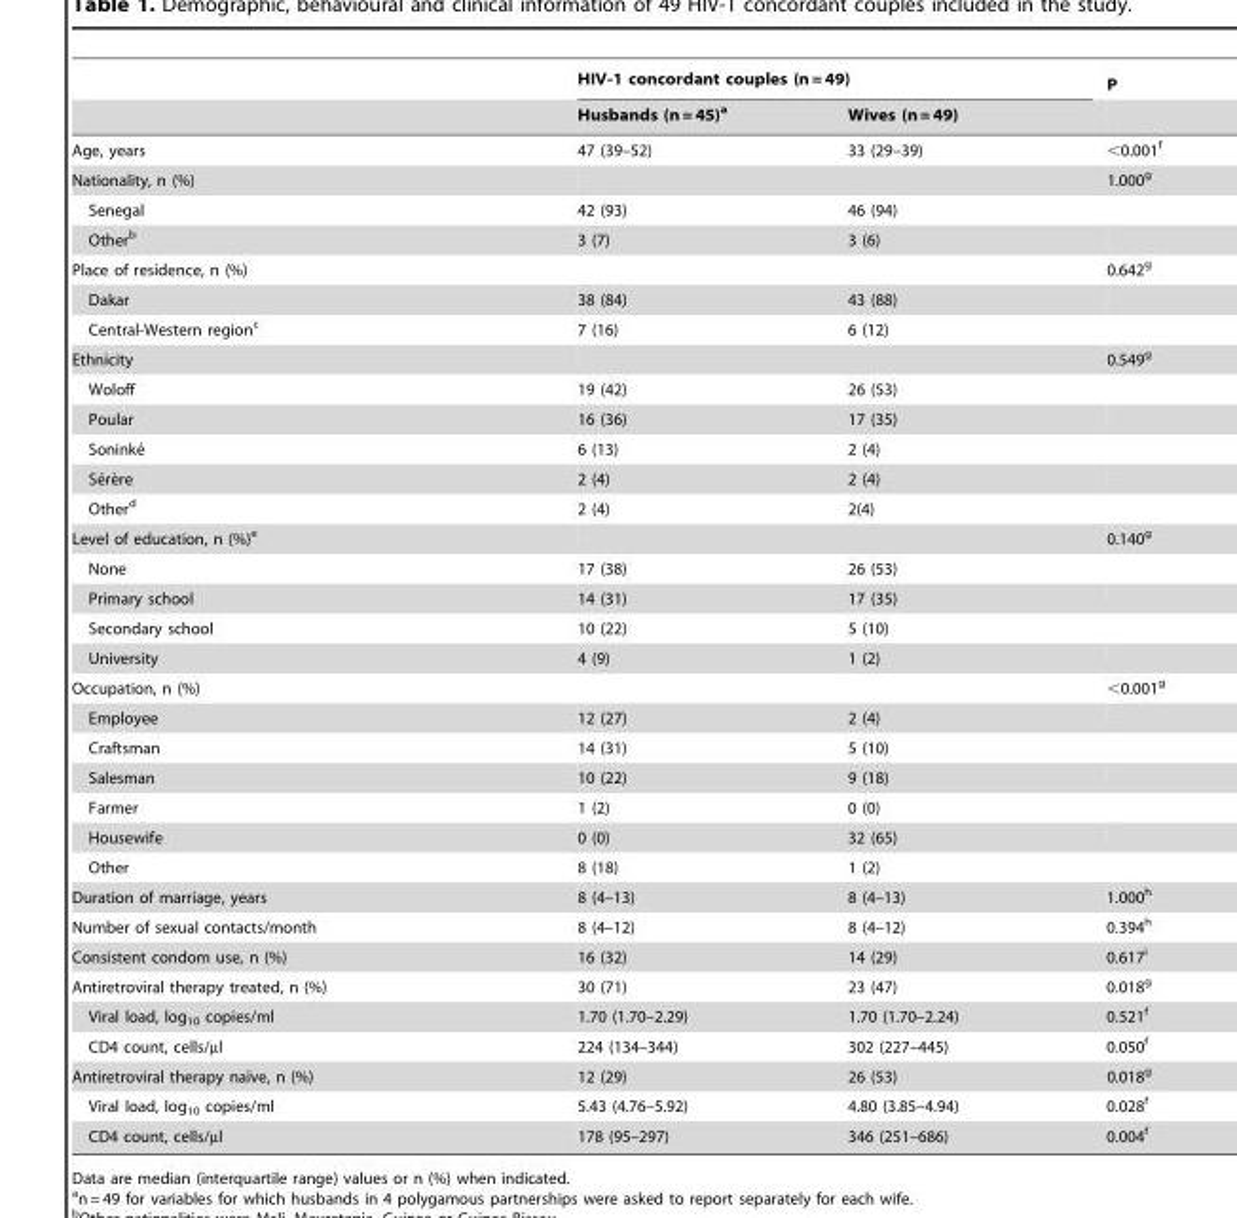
<table><thead><tr><td rowspan="2"></td><td colspan="2">HIV-1 concordant couples (n = 49)</td><td rowspan="2">P</td></tr><tr><td>Husbands (n = 45)<sup>a</sup></td><td>Wives (n = 49)</td></tr></thead><tbody><tr><td>Age, years</td><td>47 (39–52)</td><td>33 (29–39)</td><td>&lt;0.001<sup>f</sup></td></tr><tr><td>Nationality, n (%)</td><td></td><td></td><td>1.000<sup>g</sup></td></tr><tr><td>Senegal</td><td>42 (93)</td><td>46 (94)</td><td></td></tr><tr><td>Other<sup>b</sup></td><td>3 (7)</td><td>3 (6)</td><td></td></tr><tr><td>Place of residence, n (%)</td><td></td><td></td><td>0.642<sup>g</sup></td></tr><tr><td>Dakar</td><td>38 (84)</td><td>43 (88)</td><td></td></tr><tr><td>Central-Western region<sup>c</sup></td><td>7 (16)</td><td>6 (12)</td><td></td></tr><tr><td>Ethnicity</td><td></td><td></td><td>0.549<sup>g</sup></td></tr><tr><td>Woloff</td><td>19 (42)</td><td>26 (53)</td><td></td></tr><tr><td>Poular</td><td>16 (36)</td><td>17 (35)</td><td></td></tr><tr><td>Soninke´</td><td>6 (13)</td><td>2 (4)</td><td></td></tr><tr><td>Se´re`re</td><td>2 (4)</td><td>2 (4)</td><td></td></tr><tr><td>Other<sup>d</sup></td><td>2 (4)</td><td>2(4)</td><td></td></tr><tr><td>Level of education, n (%)<sup>e</sup></td><td></td><td></td><td>0.140<sup>g</sup></td></tr><tr><td>None</td><td>17 (38)</td><td>26 (53)</td><td></td></tr><tr><td>Primary school</td><td>14 (31)</td><td>17 (35)</td><td></td></tr><tr><td>Secondary school</td><td>10 (22)</td><td>5 (10)</td><td></td></tr><tr><td>University</td><td>4 (9)</td><td>1 (2)</td><td></td></tr><tr><td>Occupation, n (%)</td><td></td><td></td><td>&lt;0.001<sup>g</sup></td></tr><tr><td>Employee</td><td>12 (27)</td><td>2 (4)</td><td></td></tr><tr><td>Craftsman</td><td>14 (31)</td><td>5 (10)</td><td></td></tr><tr><td>Salesman</td><td>10 (22)</td><td>9 (18)</td><td></td></tr><tr><td>Farmer</td><td>1 (2)</td><td>0 (0)</td><td></td></tr><tr><td>Housewife</td><td>0 (0)</td><td>32 (65)</td><td></td></tr><tr><td>Other</td><td>8 (18)</td><td>1 (2)</td><td></td></tr><tr><td>Duration of marriage, years</td><td>8 (4–13)</td><td>8 (4–13)</td><td>1.000<sup>h</sup></td></tr><tr><td>Number of sexual contacts/month</td><td>8 (4–12)</td><td>8 (4–12)</td><td>0.394<sup>h</sup></td></tr><tr><td>Consistent condom use, n (%)</td><td>16 (32)</td><td>14 (29)</td><td>0.617<sup>i</sup></td></tr><tr><td>Antiretroviral therapy treated, n (%)</td><td>30 (71)</td><td>23 (47)</td><td>0.018<sup>g</sup></td></tr><tr><td>Viral load, log<sub>10</sub> copies/ml</td><td>1.70 (1.70–2.29)</td><td>1.70 (1.70–2.24)</td><td>0.521<sup>f</sup></td></tr><tr><td>CD4 count, cells/µl</td><td>224 (134–344)</td><td>302 (227–445)</td><td>0.050<sup>f</sup></td></tr><tr><td>Antiretroviral therapy naı¨ve, n (%)</td><td>12 (29)</td><td>26 (53)</td><td>0.018<sup>g</sup></td></tr><tr><td>Viral load, log<sub>10</sub> copies/ml</td><td>5.43 (4.76–5.92)</td><td>4.80 (3.85–4.94)</td><td>0.028<sup>f</sup></td></tr><tr><td>CD4 count, cells/µl</td><td>178 (95–297)</td><td>346 (251–686)</td><td>0.004<sup>f</sup></td></tr></tbody></table>